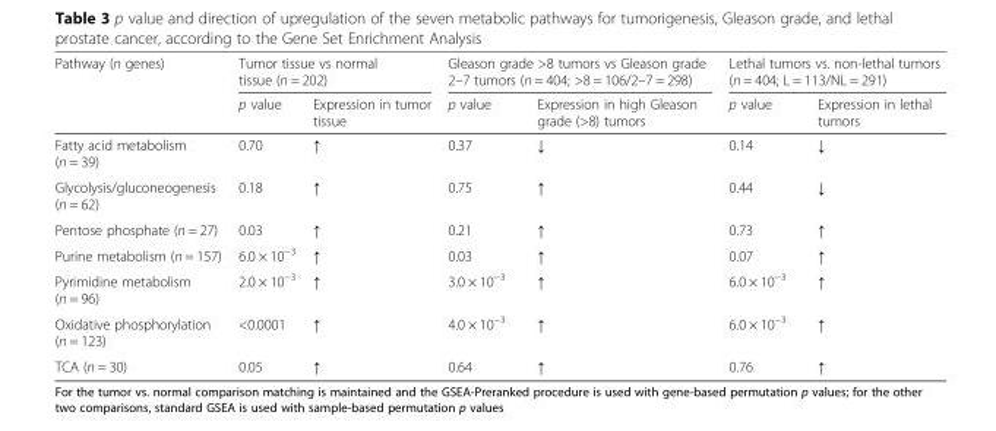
<table><thead><tr><td rowspan="2">Pathway (n genes)</td><td colspan="2">Tumor tissue vs normal tissue (n = 202)</td><td colspan="2">Gleason grade &gt;8 tumors vs Gleason grade 2–7 tumors (n = 404; &gt;8 = 106/2–7 = 298)</td><td colspan="2">Lethal tumors vs. non-lethal tumors (n = 404; L = 113/NL = 291)</td></tr><tr><td>p value</td><td>Expression in tumor tissue</td><td>p value</td><td>Expression in high Gleason grade (&gt;8) tumors</td><td>p value</td><td>Expression in lethal tumors</td></tr></thead><tbody><tr><td>Fatty acid metabolism (n = 39)</td><td>0.70</td><td>↑</td><td>0.37</td><td>↓</td><td>0.14</td><td>↓</td></tr><tr><td>Glycolysis/gluconeogenesis (n = 62)</td><td>0.18</td><td>↑</td><td>0.75</td><td>↑</td><td>0.44</td><td>↓</td></tr><tr><td>Pentose phosphate (n = 27)</td><td>0.03</td><td>↑</td><td>0.21</td><td>↑</td><td>0.73</td><td>↑</td></tr><tr><td>Purine metabolism (n = 157)</td><td>6.0 × 10<sup>−3</sup></td><td>↑</td><td>0.03</td><td>↑</td><td>0.07</td><td>↑</td></tr><tr><td>Pyrimidine metabolism (n = 96)</td><td>2.0 × 10<sup>−3</sup></td><td>↑</td><td>3.0 × 10<sup>−3</sup></td><td>↑</td><td>6.0 × 10<sup>−3</sup></td><td>↑</td></tr><tr><td>Oxidative phosphorylation (n = 123)</td><td>&lt;0.0001</td><td>↑</td><td>4.0 × 10<sup>−3</sup></td><td>↑</td><td>6.0 × 10<sup>−3</sup></td><td>↑</td></tr><tr><td>TCA (n = 30)</td><td>0.05</td><td>↑</td><td>0.64</td><td>↑</td><td>0.76</td><td>↑</td></tr></tbody></table>